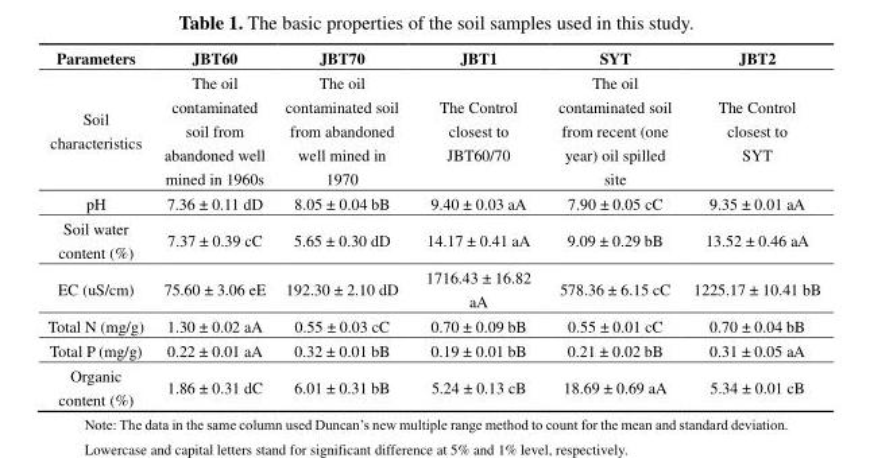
<table><thead><tr><td>Parameters</td><td>JBT60</td><td>JBT70</td><td>JBT1</td><td>SYT</td><td>JBT2</td></tr></thead><tbody><tr><td>Soil characteristics</td><td>The oil contaminated soil from abandoned well mined in 1960s</td><td>The oil contaminated soil from abandoned well mined in 1970</td><td>The Control closest to JBT60/70</td><td>The oil contaminated soil from recent (one year) oil spilled site</td><td>The Control closest to SYT</td></tr><tr><td>pH</td><td>7.36 ± 0.11 dD</td><td>8.05 ± 0.04 bB</td><td>9.40 ± 0.03 aA</td><td>7.90 ± 0.05 cC</td><td>9.35 ± 0.01 aA</td></tr><tr><td>Soil water content (%)</td><td>7.37 ± 0.39 cC</td><td>5.65 ± 0.30 dD</td><td>14.17 ± 0.41 aA</td><td>9.09 ± 0.29 bB</td><td>13.52 ± 0.46 aA</td></tr><tr><td>EC (uS/cm)</td><td>75.60 ± 3.06 eE</td><td>192.30 ± 2.10 dD</td><td>1716.43 ± 16.82 aA</td><td>578.36 ± 6.15 cC</td><td>1225.17 ± 10.41 bB</td></tr><tr><td>Total N (mg/g)</td><td>1.30 ± 0.02 aA</td><td>0.55 ± 0.03 cC</td><td>0.70 ± 0.09 bB</td><td>0.55 ± 0.01 cC</td><td>0.70 ± 0.04 bB</td></tr><tr><td>Total P (mg/g)</td><td>0.22 ± 0.01 aA</td><td>0.32 ± 0.01 bB</td><td>0.19 ± 0.01 bB</td><td>0.21 ± 0.02 bB</td><td>0.31 ± 0.05 aA</td></tr><tr><td>Organic content (%)</td><td>1.86 ± 0.31 dC</td><td>6.01 ± 0.31 bB</td><td>5.24 ± 0.13 cB</td><td>18.69 ± 0.69 aA</td><td>5.34 ± 0.01 cB</td></tr></tbody></table>